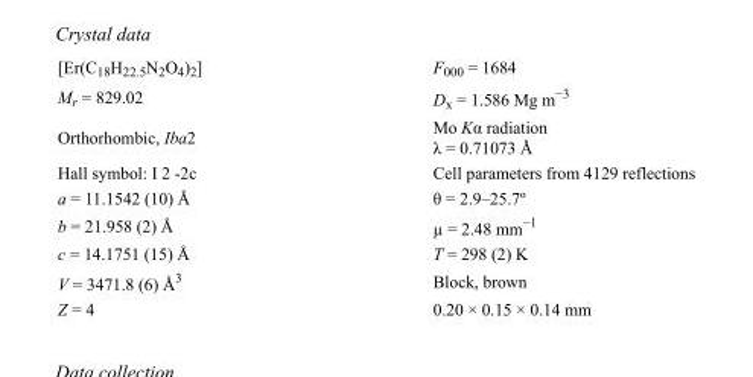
<table><tbody><tr><td>[Er(C<sub>18</sub>H<sub>22.5</sub>N<sub>2</sub>O<sub>4</sub>)<sub>2</sub>]</td><td>F000 = 1684</td></tr><tr><td>M<sub>r</sub> = 829.02</td><td>D<sub>x</sub> = 1.586 Mg m<sup>−3</sup></td></tr><tr><td>Orthorhombic, Iba2</td><td>Mo Kα radiation λ = 0.71073 Å</td></tr><tr><td>Hall symbol: I 2 -2c</td><td>Cell parameters from 4129 reflections</td></tr><tr><td>a = 11.1542 (10) Å</td><td>θ = 2.9–25.7º</td></tr><tr><td>b = 21.958 (2) Å</td><td>µ = 2.48 mm<sup>−1</sup></td></tr><tr><td>c = 14.1751 (15) Å</td><td>T = 298 (2) K</td></tr><tr><td>V = 3471.8 (6) Å<sup>3</sup></td><td>Block, brown</td></tr><tr><td>Z = 4</td><td>0.20 × 0.15 × 0.14 mm</td></tr></tbody></table>